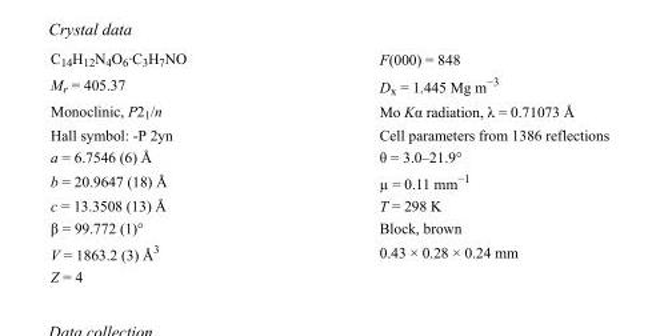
<table><tbody><tr><td>C<sub>14</sub>H<sub>12</sub>N<sub>4</sub>O<sub>6</sub>·C<sub>3</sub>H<sub>7</sub>NO</td><td>F(000) = 848</td></tr><tr><td>M<sub>r</sub> = 405.37</td><td>D<sub>x</sub> = 1.445 Mg m<sup>−3</sup></td></tr><tr><td>Monoclinic, P2<sub>1</sub>/n</td><td>Mo Kα radiation, λ = 0.71073 Å</td></tr><tr><td>Hall symbol: -P 2yn</td><td>Cell parameters from 1386 reflections</td></tr><tr><td>a = 6.7546 (6) Å</td><td>θ = 3.0–21.9°</td></tr><tr><td>b = 20.9647 (18) Å</td><td>µ = 0.11 mm<sup>−1</sup></td></tr><tr><td>c = 13.3508 (13) Å</td><td>T = 298 K</td></tr><tr><td>β = 99.772 (1)°</td><td>Block, brown</td></tr><tr><td>V = 1863.2 (3) Å<sup>3</sup></td><td>0.43 × 0.28 × 0.24 mm</td></tr><tr><td>Z = 4</td><td></td></tr></tbody></table>